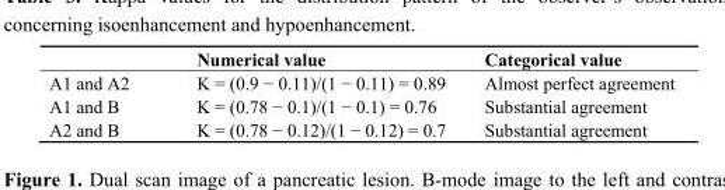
<table><thead><tr><td></td><td>Numerical value</td><td>Categorical value</td></tr></thead><tbody><tr><td>A1 and A2</td><td>K = (0.9 − 0.11)/(1 − 0.11) = 0.89</td><td>Almost perfect agreement</td></tr><tr><td>A1 and B</td><td>K = (0.78 − 0.1)/(1 − 0.1) = 0.76</td><td>Substantial agreement</td></tr><tr><td>A2 and B</td><td>K = (0.78 − 0.12)/(1 − 0.12) = 0.7</td><td>Substantial agreement</td></tr></tbody></table>